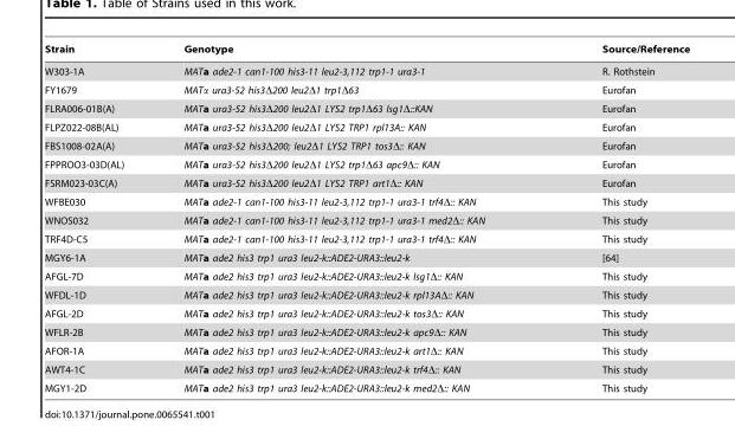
<table><thead><tr><td>Strain</td><td>Genotype</td><td>Source/Reference</td></tr></thead><tbody><tr><td>W303-1A</td><td>MATa ade2-1 can1-100 his3-11 leu2-3,112 trp1-1 ura3-1</td><td>R. Rothstein</td></tr><tr><td>FY1679</td><td>MATα ura3-52 his3Δ200 leu2Δ1 trp1Δ63</td><td>Eurofan</td></tr><tr><td>FLRA006-01B(A)</td><td>MATa ura3-52 his3Δ200 leu2Δ1 LYS2 trp1Δ63 lsg1Δ::KAN</td><td>Eurofan</td></tr><tr><td>FLPZ022-08B(AL)</td><td>MATa ura3-52 his3Δ200 leu2Δ1 LYS2 TRP1 rpl13A:: KAN</td><td>Eurofan</td></tr><tr><td>FBS1008-02A(A)</td><td>MATa ura3-52 his3Δ200; leu2Δ1 LYS2 TRP1 tos3Δ:: KAN</td><td>Eurofan</td></tr><tr><td>FPPROO3-03D(AL)</td><td>MATa ura3-52 his3Δ200 leu2Δ1 LYS2 trp1Δ63 apc9Δ:: KAN</td><td>Eurofan</td></tr><tr><td>FSRM023-03C(A)</td><td>MATa ura3-52 his3Δ200 leu2Δ1 LYS2 TRP1 art1Δ:: KAN</td><td>Eurofan</td></tr><tr><td>WFBE030</td><td>MATa ade2-1 can1-100 his3-11 leu2-3,112 trp1-1 ura3-1 trf4Δ:: KAN</td><td>This study</td></tr><tr><td>WNOS032</td><td>MATa ade2-1 can1-100 his3-11 leu2-3,112 trp1-1 ura3-1 med2Δ:: KAN</td><td>This study</td></tr><tr><td>TRF4D-C5</td><td>MATa ade2-1 can1-100 his3-11 leu2-3,112 trp1-1 ura3-1 trf4Δ:: KAN</td><td>This study</td></tr><tr><td>MGY6-1A</td><td>MATa ade2 his3 trp1 ura3 leu2-k::ADE2-URA3::leu2-k</td><td>[64]</td></tr><tr><td>AFGL-7D</td><td>MATa ade2 his3 trp1 ura3 leu2-k::ADE2-URA3::leu2-k lsg1Δ:: KAN</td><td>This study</td></tr><tr><td>WFDL-1D</td><td>MATa ade2 his3 trp1 ura3 leu2-k::ADE2-URA3::leu2-k rpl13AΔ:: KAN</td><td>This study</td></tr><tr><td>AFGL-2D</td><td>MATa ade2 his3 trp1 ura3 leu2-k::ADE2-URA3::leu2-k tos3Δ:: KAN</td><td>This study</td></tr><tr><td>WFLR-2B</td><td>MATa ade2 his3 trp1 ura3 leu2-k::ADE2-URA3::leu2-k apc9Δ:: KAN</td><td>This study</td></tr><tr><td>AFOR-1A</td><td>MATa ade2 his3 trp1 ura3 leu2-k::ADE2-URA3::leu2-k art1Δ:: KAN</td><td>This study</td></tr><tr><td>AWT4-1C</td><td>MATa ade2 his3 trp1 ura3 leu2-k::ADE2-URA3::leu2-k trf4Δ:: KAN</td><td>This study</td></tr><tr><td>MGY1-2D</td><td>MATa ade2 his3 trp1 ura3 leu2-k::ADE2-URA3::leu2-k med2Δ:: KAN</td><td>This study</td></tr></tbody></table>